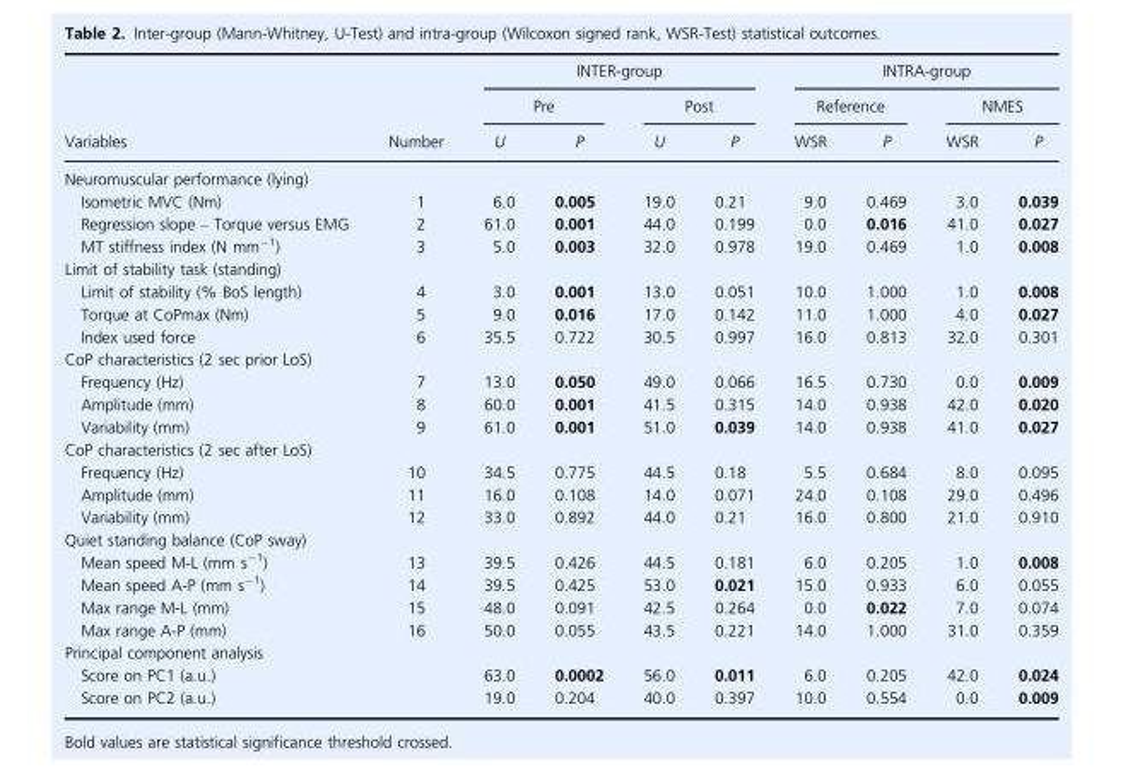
<table><thead><tr><td rowspan="3">Variables</td><td rowspan="3">Number</td><td colspan="4">INTER-group</td><td colspan="4">INTRA-group</td></tr><tr><td colspan="2">Pre</td><td colspan="2">Post</td><td colspan="2">Reference</td><td colspan="2">NMES</td></tr><tr><td>U</td><td>P</td><td>U</td><td>P</td><td>WSR</td><td>P</td><td>WSR</td><td>P</td></tr></thead><tbody><tr><td colspan="10">Neuromuscular performance (lying)</td></tr><tr><td>Isometric MVC (Nm)</td><td>1</td><td>6.0</td><td>0.005</td><td>19.0</td><td>0.21</td><td>9.0</td><td>0.469</td><td>3.0</td><td>0.039</td></tr><tr><td>Regression slope – Torque versus EMG</td><td>2</td><td>61.0</td><td>0.001</td><td>44.0</td><td>0.199</td><td>0.0</td><td>0.016</td><td>41.0</td><td>0.027</td></tr><tr><td>MT stiffness index (N mm<sup>−1</sup>)</td><td>3</td><td>5.0</td><td>0.003</td><td>32.0</td><td>0.978</td><td>19.0</td><td>0.469</td><td>1.0</td><td>0.008</td></tr><tr><td colspan="10">Limit of stability task (standing)</td></tr><tr><td>Limit of stability (% BoS length)</td><td>4</td><td>3.0</td><td>0.001</td><td>13.0</td><td>0.051</td><td>10.0</td><td>1.000</td><td>1.0</td><td>0.008</td></tr><tr><td>Torque at CoPmax (Nm)</td><td>5</td><td>9.0</td><td>0.016</td><td>17.0</td><td>0.142</td><td>11.0</td><td>1.000</td><td>4.0</td><td>0.027</td></tr><tr><td>Index used force</td><td>6</td><td>35.5</td><td>0.722</td><td>30.5</td><td>0.997</td><td>16.0</td><td>0.813</td><td>32.0</td><td>0.301</td></tr><tr><td colspan="10">CoP characteristics (2 sec prior LoS)</td></tr><tr><td>Frequency (Hz)</td><td>7</td><td>13.0</td><td>0.050</td><td>49.0</td><td>0.066</td><td>16.5</td><td>0.730</td><td>0.0</td><td>0.009</td></tr><tr><td>Amplitude (mm)</td><td>8</td><td>60.0</td><td>0.001</td><td>41.5</td><td>0.315</td><td>14.0</td><td>0.938</td><td>42.0</td><td>0.020</td></tr><tr><td>Variability (mm)</td><td>9</td><td>61.0</td><td>0.001</td><td>51.0</td><td>0.039</td><td>14.0</td><td>0.938</td><td>41.0</td><td>0.027</td></tr><tr><td colspan="10">CoP characteristics (2 sec after LoS)</td></tr><tr><td>Frequency (Hz)</td><td>10</td><td>34.5</td><td>0.775</td><td>44.5</td><td>0.18</td><td>5.5</td><td>0.684</td><td>8.0</td><td>0.095</td></tr><tr><td>Amplitude (mm)</td><td>11</td><td>16.0</td><td>0.108</td><td>14.0</td><td>0.071</td><td>24.0</td><td>0.108</td><td>29.0</td><td>0.496</td></tr><tr><td>Variability (mm)</td><td>12</td><td>33.0</td><td>0.892</td><td>44.0</td><td>0.21</td><td>16.0</td><td>0.800</td><td>21.0</td><td>0.910</td></tr><tr><td colspan="10">Quiet standing balance (CoP sway)</td></tr><tr><td>Mean speed M-L (mm s<sup>−1</sup>)</td><td>13</td><td>39.5</td><td>0.426</td><td>44.5</td><td>0.181</td><td>6.0</td><td>0.205</td><td>1.0</td><td>0.008</td></tr><tr><td>Mean speed A-P (mm s<sup>−1</sup>)</td><td>14</td><td>39.5</td><td>0.425</td><td>53.0</td><td>0.021</td><td>15.0</td><td>0.933</td><td>6.0</td><td>0.055</td></tr><tr><td>Max range M-L (mm)</td><td>15</td><td>48.0</td><td>0.091</td><td>42.5</td><td>0.264</td><td>0.0</td><td>0.022</td><td>7.0</td><td>0.074</td></tr><tr><td>Max range A-P (mm)</td><td>16</td><td>50.0</td><td>0.055</td><td>43.5</td><td>0.221</td><td>14.0</td><td>1.000</td><td>31.0</td><td>0.359</td></tr><tr><td colspan="10">Principal component analysis</td></tr><tr><td>Score on PC1 (a.u.)</td><td></td><td>63.0</td><td>0.0002</td><td>56.0</td><td>0.011</td><td>6.0</td><td>0.205</td><td>42.0</td><td>0.024</td></tr><tr><td>Score on PC2 (a.u.)</td><td></td><td>19.0</td><td>0.204</td><td>40.0</td><td>0.397</td><td>10.0</td><td>0.554</td><td>0.0</td><td>0.009</td></tr></tbody></table>